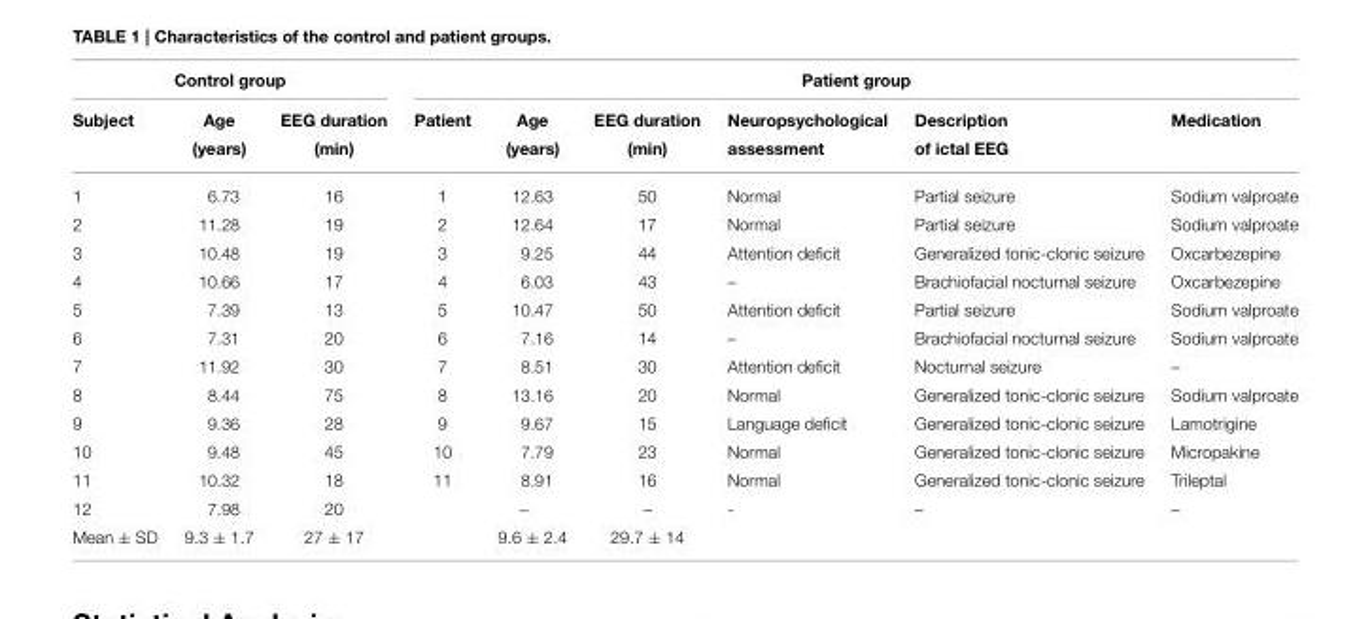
<table><thead><tr><td colspan="3">Control group</td><td colspan="6">Patient group</td></tr><tr><td>Subject</td><td>Age (years)</td><td>EEG duration (min)</td><td>Patient</td><td>Age (years)</td><td>EEG duration (min)</td><td>Neuropsychological assessment</td><td>Description of ictal EEG</td><td>Medication</td></tr></thead><tbody><tr><td>1</td><td>6.73</td><td>16</td><td>1</td><td>12.63</td><td>50</td><td>Normal</td><td>Partial seizure</td><td>Sodium valproate</td></tr><tr><td>2</td><td>11.28</td><td>19</td><td>2</td><td>12.64</td><td>17</td><td>Normal</td><td>Partial seizure</td><td>Sodium valproate</td></tr><tr><td>3</td><td>10.48</td><td>19</td><td>3</td><td>9.25</td><td>44</td><td>Attention deficit</td><td>Generalized tonic-clonic seizure</td><td>Oxcarbezepine</td></tr><tr><td>4</td><td>10.66</td><td>17</td><td>4</td><td>6.03</td><td>43</td><td>–</td><td>Brachiofacial nocturnal seizure</td><td>Oxcarbezepine</td></tr><tr><td>5</td><td>7.39</td><td>13</td><td>5</td><td>10.47</td><td>50</td><td>Attention deficit</td><td>Partial seizure</td><td>Sodium valproate</td></tr><tr><td>6</td><td>7.31</td><td>20</td><td>6</td><td>7.16</td><td>14</td><td>–</td><td>Brachiofacial nocturnal seizure</td><td>Sodium valproate</td></tr><tr><td>7</td><td>11.92</td><td>30</td><td>7</td><td>8.51</td><td>30</td><td>Attention deficit</td><td>Nocturnal seizure</td><td>–</td></tr><tr><td>8</td><td>8.44</td><td>75</td><td>8</td><td>13.16</td><td>20</td><td>Normal</td><td>Generalized tonic-clonic seizure</td><td>Sodium valproate</td></tr><tr><td>9</td><td>9.36</td><td>28</td><td>9</td><td>9.67</td><td>15</td><td>Language deficit</td><td>Generalized tonic-clonic seizure</td><td>Lamotrigine</td></tr><tr><td>10</td><td>9.48</td><td>45</td><td>10</td><td>7.79</td><td>23</td><td>Normal</td><td>Generalized tonic-clonic seizure</td><td>Micropakine</td></tr><tr><td>11</td><td>10.32</td><td>18</td><td>11</td><td>8.91</td><td>16</td><td>Normal</td><td>Generalized tonic-clonic seizure</td><td>Trileptal</td></tr><tr><td>12</td><td>7.98</td><td>20</td><td></td><td>−</td><td>–</td><td>-</td><td>–</td><td>–</td></tr><tr><td>Mean ± SD</td><td>9.3 ± 1.7</td><td>27 ± 17</td><td></td><td>9.6 ± 2.4</td><td>29.7 ± 14</td><td></td><td></td><td></td></tr></tbody></table>